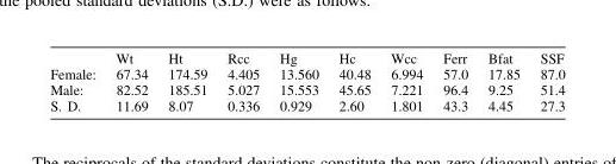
<table><thead><tr><td></td><td>Wt</td><td>Ht</td><td>Rcc</td><td>Hg</td><td>Hc</td><td>Wcc</td><td>Ferr</td><td>Bfat</td><td>SSF</td></tr></thead><tbody><tr><td>Female:</td><td>67.34</td><td>174.59</td><td>4.405</td><td>13.560</td><td>40.48</td><td>6.994</td><td>57.0</td><td>17.85</td><td>87.0</td></tr><tr><td>Male:</td><td>82.52</td><td>185.51</td><td>5.027</td><td>15.553</td><td>45.65</td><td>7.221</td><td>96.4</td><td>9.25</td><td>51.4</td></tr><tr><td>S. D.</td><td>11.69</td><td>8.07</td><td>0.336</td><td>0.929</td><td>2.60</td><td>1.801</td><td>43.3</td><td>4.45</td><td>27.3</td></tr></tbody></table>